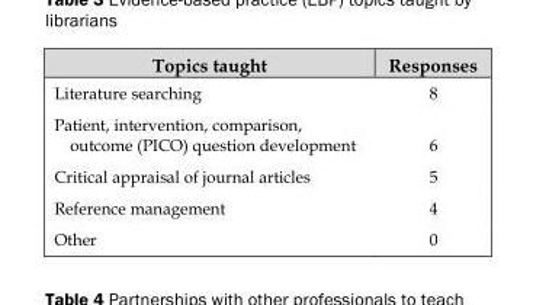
<table><thead><tr><td>Topics taught</td><td>Responses</td></tr></thead><tbody><tr><td>Literature searching</td><td>8</td></tr><tr><td>Patient, intervention, comparison, outcome (PICO) question development</td><td>6</td></tr><tr><td>Critical appraisal of journal articles</td><td>5</td></tr><tr><td>Reference management</td><td>4</td></tr><tr><td>Other</td><td>0</td></tr></tbody></table>